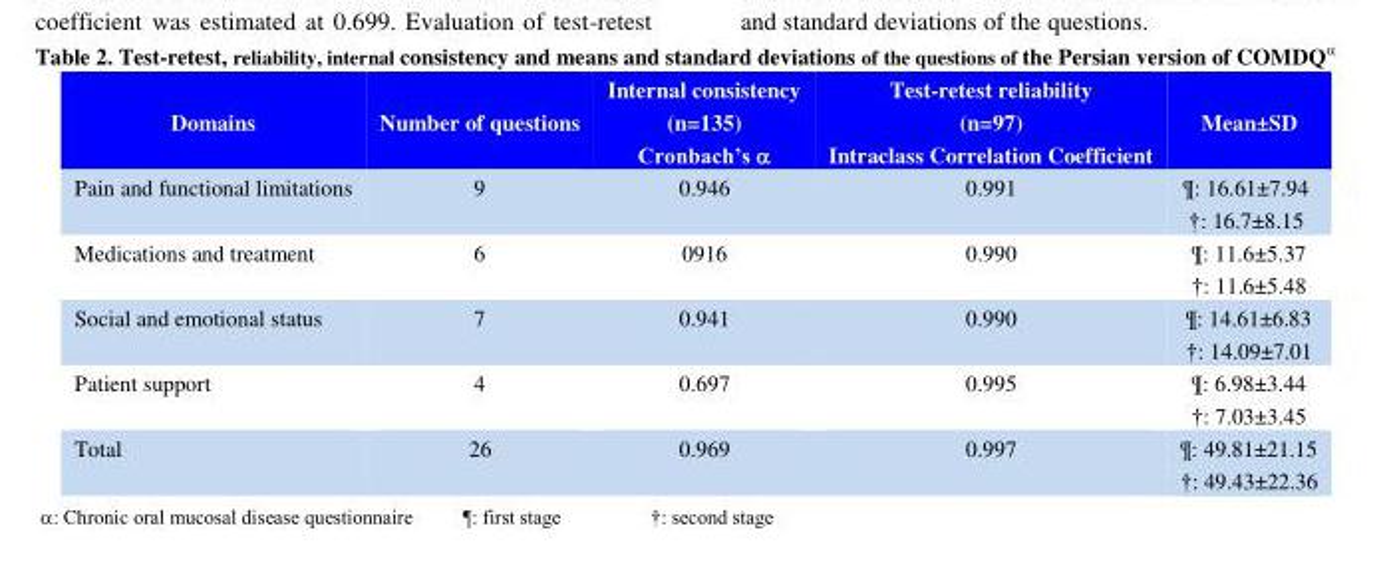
<table><thead><tr><td>Domains</td><td>Number of questions</td><td>Internal consistency (n=135) Cronbach’s </td><td>Test-retest reliability (n=97) Intraclass Correlation Coefficient</td><td>Mean±SD</td></tr></thead><tbody><tr><td>Pain and functional limitations</td><td>9</td><td>0.946</td><td>0.991</td><td>¶: 16.61±7.94 †: 16.7±8.15</td></tr><tr><td>Medications and treatment</td><td>6</td><td>0916</td><td>0.990</td><td>¶: 11.6±5.37 †: 11.6±5.48</td></tr><tr><td>Social and emotional status</td><td>7</td><td>0.941</td><td>0.990</td><td>¶: 14.61±6.83 †: 14.09±7.01</td></tr><tr><td>Patient support</td><td>4</td><td>0.697</td><td>0.995</td><td>¶: 6.98±3.44 †: 7.03±3.45</td></tr><tr><td>Total</td><td>26</td><td>0.969</td><td>0.997</td><td>¶: 49.81±21.15 †: 49.43±22.36</td></tr></tbody></table>